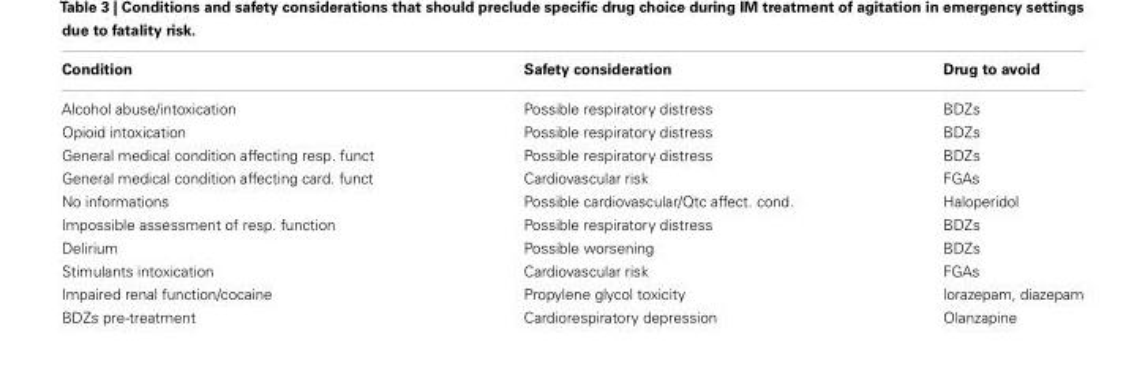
<table><thead><tr><td>Condition</td><td>Safety consideration</td><td>Drug to avoid</td></tr></thead><tbody><tr><td>Alcohol abuse/intoxication</td><td>Possible respiratory distress</td><td>BDZs</td></tr><tr><td>Opioid intoxication</td><td>Possible respiratory distress</td><td>BDZs</td></tr><tr><td>General medical condition affecting resp. funct</td><td>Possible respiratory distress</td><td>BDZs</td></tr><tr><td>General medical condition affecting card. funct</td><td>Cardiovascular risk</td><td>FGAs</td></tr><tr><td>No informations</td><td>Possible cardiovascular/Qtc affect. cond.</td><td>Haloperidol</td></tr><tr><td>Impossible assessment of resp. function</td><td>Possible respiratory distress</td><td>BDZs</td></tr><tr><td>Delirium</td><td>Possible worsening</td><td>BDZs</td></tr><tr><td>Stimulants intoxication</td><td>Cardiovascular risk</td><td>FGAs</td></tr><tr><td>Impaired renal function/cocaine</td><td>Propylene glycol toxicity</td><td>lorazepam, diazepam</td></tr><tr><td>BDZs pre-treatment</td><td>Cardiorespiratory depression</td><td>Olanzapine</td></tr></tbody></table>